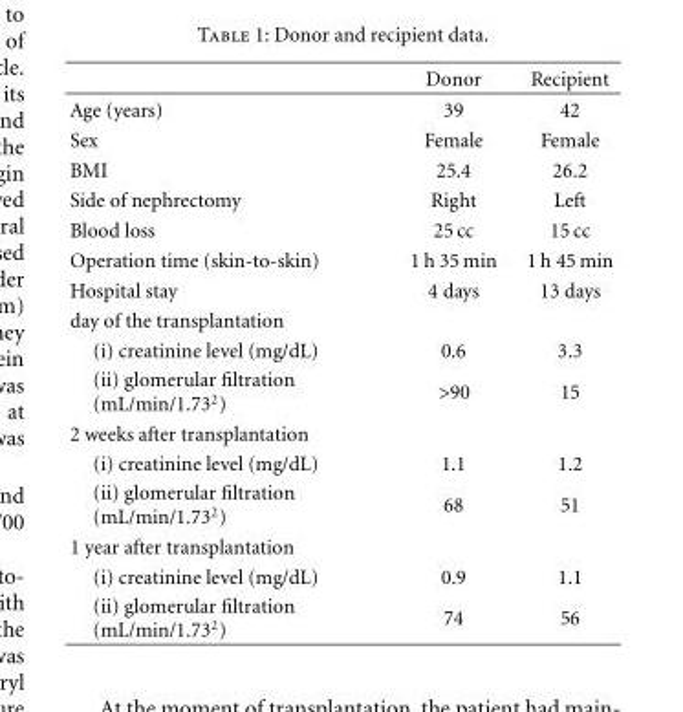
<table><thead><tr><td></td><td>Donor</td><td>Recipient</td></tr></thead><tbody><tr><td>Age (years)</td><td>39</td><td>42</td></tr><tr><td>Sex</td><td>Female</td><td>Female</td></tr><tr><td>BMI</td><td>25.4</td><td>26.2</td></tr><tr><td>Side of nephrectomy</td><td>Right</td><td>Left</td></tr><tr><td>Blood loss</td><td>25 cc</td><td>15 cc</td></tr><tr><td>Operation time (skin-to-skin)</td><td>1 h 35 min</td><td>1 h 45 min</td></tr><tr><td>Hospital stay</td><td>4 days</td><td>13 days</td></tr><tr><td colspan="3">day of the transplantation</td></tr><tr><td>(i) creatinine level (mg/dL)</td><td>0.6</td><td>3.3</td></tr><tr><td>(ii) glomerular filtration (mL/min/1.73<sup>2</sup>)</td><td>&gt;90</td><td>15</td></tr><tr><td colspan="3">2 weeks after transplantation</td></tr><tr><td>(i) creatinine level (mg/dL)</td><td>1.1</td><td>1.2</td></tr><tr><td>(ii) glomerular filtration (mL/min/1.73<sup>2</sup>)</td><td>68</td><td>51</td></tr><tr><td colspan="3">1 year after transplantation</td></tr><tr><td>(i) creatinine level (mg/dL)</td><td>0.9</td><td>1.1</td></tr><tr><td>(ii) glomerular filtration (mL/min/1.73<sup>2</sup>)</td><td>74</td><td>56</td></tr></tbody></table>